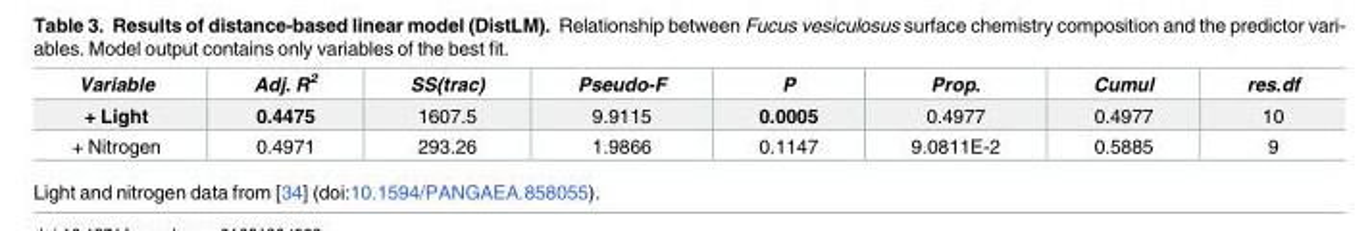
<table><thead><tr><td>Variable</td><td>Adj. R<sup>2</sup></td><td>SS(trac)</td><td>Pseudo-F</td><td>P</td><td>Prop.</td><td>Cumul</td><td>res.df</td></tr></thead><tbody><tr><td>+ Light</td><td>0.4475</td><td>1607.5</td><td>9.9115</td><td>0.0005</td><td>0.4977</td><td>0.4977</td><td>10</td></tr><tr><td>+ Nitrogen</td><td>0.4971</td><td>293.26</td><td>1.9866</td><td>0.1147</td><td>9.0811E-2</td><td>0.5885</td><td>9</td></tr></tbody></table>